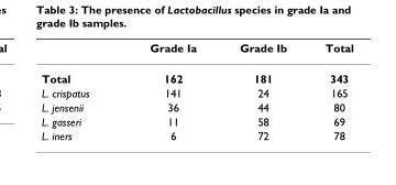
<table><thead><tr><td></td><td>Grade Ia</td><td>Grade Ib</td><td>Total</td></tr></thead><tbody><tr><td>Total</td><td>162</td><td>181</td><td>343</td></tr><tr><td>L. crispatus</td><td>141</td><td>24</td><td>165</td></tr><tr><td>L. jensenii</td><td>36</td><td>44</td><td>80</td></tr><tr><td>L. gasseri</td><td>11</td><td>58</td><td>69</td></tr><tr><td>L. iners</td><td>6</td><td>72</td><td>78</td></tr></tbody></table>